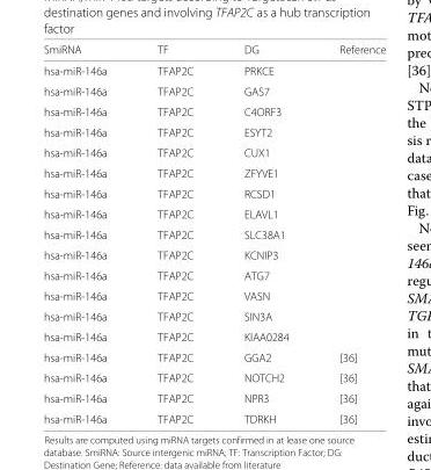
<table><thead><tr><td>SmiRNA</td><td>TF</td><td>DG</td><td>Reference</td></tr></thead><tbody><tr><td>hsa-miR-146a</td><td>TFAP2C</td><td>PRKCE</td><td></td></tr><tr><td>hsa-miR-146a</td><td>TFAP2C</td><td>GAS7</td><td></td></tr><tr><td>hsa-miR-146a</td><td>TFAP2C</td><td>C4ORF3</td><td></td></tr><tr><td>hsa-miR-146a</td><td>TFAP2C</td><td>ESYT2</td><td></td></tr><tr><td>hsa-miR-146a</td><td>TFAP2C</td><td>CUX1</td><td></td></tr><tr><td>hsa-miR-146a</td><td>TFAP2C</td><td>ZFYVE1</td><td></td></tr><tr><td>hsa-miR-146a</td><td>TFAP2C</td><td>RCSD1</td><td></td></tr><tr><td>hsa-miR-146a</td><td>TFAP2C</td><td>ELAVL1</td><td></td></tr><tr><td>hsa-miR-146a</td><td>TFAP2C</td><td>SLC38A1</td><td></td></tr><tr><td>hsa-miR-146a</td><td>TFAP2C</td><td>KCNIP3</td><td></td></tr><tr><td>hsa-miR-146a</td><td>TFAP2C</td><td>ATG7</td><td></td></tr><tr><td>hsa-miR-146a</td><td>TFAP2C</td><td>VASN</td><td></td></tr><tr><td>hsa-miR-146a</td><td>TFAP2C</td><td>SIN3A</td><td></td></tr><tr><td>hsa-miR-146a</td><td>TFAP2C</td><td>KIAA0284</td><td></td></tr><tr><td>hsa-miR-146a</td><td>TFAP2C</td><td>GGA2</td><td>[36]</td></tr><tr><td>hsa-miR-146a</td><td>TFAP2C</td><td>NOTCH2</td><td>[36]</td></tr><tr><td>hsa-miR-146a</td><td>TFAP2C</td><td>NPR3</td><td>[36]</td></tr><tr><td>hsa-miR-146a</td><td>TFAP2C</td><td>TDRKH</td><td>[36]</td></tr></tbody></table>